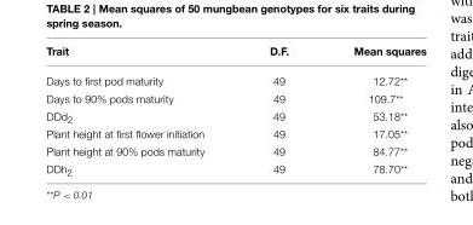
<table><thead><tr><td>Trait</td><td>D.F.</td><td>Mean squares</td></tr></thead><tbody><tr><td>Days to first pod maturity</td><td>49</td><td>12.72**</td></tr><tr><td>Days to 90% pods maturity</td><td>49</td><td>109.7**</td></tr><tr><td>DDd<sub>2</sub></td><td>49</td><td>53.18**</td></tr><tr><td>Plant height at first flower initiation</td><td>49</td><td>17.05**</td></tr><tr><td>Plant height at 90% pods maturity</td><td>49</td><td>84.77**</td></tr><tr><td>DDh<sub>2</sub></td><td>49</td><td>78.70**</td></tr></tbody></table>